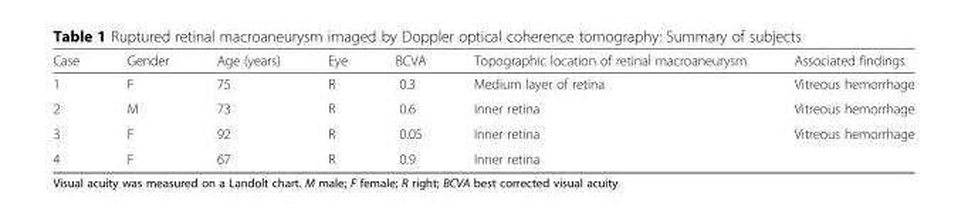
<table><thead><tr><td>Case</td><td>Gender</td><td>Age (years)</td><td>Eye</td><td>BCVA</td><td>Topographic location of retinal macroaneurysm</td><td>Associated findings</td></tr></thead><tbody><tr><td>1</td><td>F</td><td>75</td><td>R</td><td>0.3</td><td>Medium layer of retina</td><td>Vitreous hemorrhage</td></tr><tr><td>2</td><td>M</td><td>73</td><td>R</td><td>0.6</td><td>Inner retina</td><td>Vitreous hemorrhage</td></tr><tr><td>3</td><td>F</td><td>92</td><td>R</td><td>0.05</td><td>Inner retina</td><td>Vitreous hemorrhage</td></tr><tr><td>4</td><td>F</td><td>67</td><td>R</td><td>0.9</td><td>Inner retina</td><td></td></tr></tbody></table>